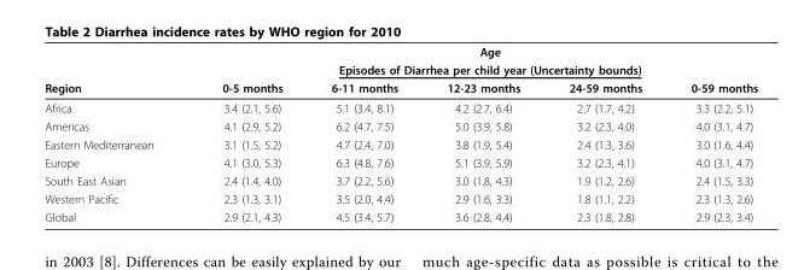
<table><thead><tr><td rowspan="3">Region</td><td rowspan="2" colspan="5">Age Episodes of Diarrhea per child year (Uncertainty bounds)</td></tr><tr></tr><tr><td>0-5 months</td><td>6-11 months</td><td>12-23 months</td><td>24-59 months</td><td>0-59 months</td></tr></thead><tbody><tr><td>Africa</td><td>3.4 (2.1, 5.6)</td><td>5.1 (3.4, 8.1)</td><td>4.2 (2.7, 6.4)</td><td>2.7 (1.7, 4.2)</td><td>3.3 (2.2, 5.1)</td></tr><tr><td>Americas</td><td>4.1 (2.9, 5.2)</td><td>6.2 (4.7, 7.5)</td><td>5.0 (3.9, 5.8)</td><td>3.2 (2.3, 4.0)</td><td>4.0 (3.1, 4.7)</td></tr><tr><td>Eastern Mediterranean</td><td>3.1 (1.5, 5.2)</td><td>4.7 (2.4, 7.0)</td><td>3.8 (1.9, 5.4)</td><td>2.4 (1.3, 3.6)</td><td>3.0 (1.6, 4.4)</td></tr><tr><td>Europe</td><td>4.1 (3.0, 5.3)</td><td>6.3 (4.8, 7.6)</td><td>5.1 (3.9, 5.9)</td><td>3.2 (2.3, 4.1)</td><td>4.0 (3.1, 4.7)</td></tr><tr><td>South East Asian</td><td>2.4 (1.4, 4.0)</td><td>3.7 (2.2, 5.6)</td><td>3.0 (1.8, 4.3)</td><td>1.9 (1.2, 2.6)</td><td>2.4 (1.5, 3.3)</td></tr><tr><td>Western Pacific</td><td>2.3 (1.3, 3.1)</td><td>3.5 (2.0, 4.4)</td><td>2.9 (1.6, 3.3)</td><td>1.8 (1.1, 2.2)</td><td>2.3 (1.3, 2.6)</td></tr><tr><td>Global</td><td>2.9 (2.1, 4.3)</td><td>4.5 (3.4, 5.7)</td><td>3.6 (2.8, 4.4)</td><td>2.3 (1.8, 2.8)</td><td>2.9 (2.3, 3.4)</td></tr></tbody></table>